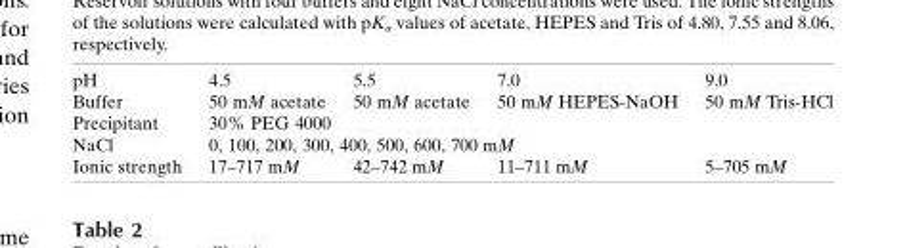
<table><tbody><tr><td>pH</td><td>4.5</td><td>5.5</td><td>7.0</td><td>9.0</td></tr><tr><td>Buffer</td><td>50 mM acetate</td><td>50 mM acetate</td><td>50 mM HEPES-NaOH</td><td>50 mM Tris-HCl</td></tr><tr><td>Precipitant</td><td colspan="4">30% PEG 4000</td></tr><tr><td>NaCl</td><td colspan="4">0, 100, 200, 300, 400, 500, 600, 700 mM</td></tr><tr><td>Ionic strength</td><td>17–717 mM</td><td>42–742 mM</td><td>11–711 mM</td><td>5–705 mM</td></tr></tbody></table>